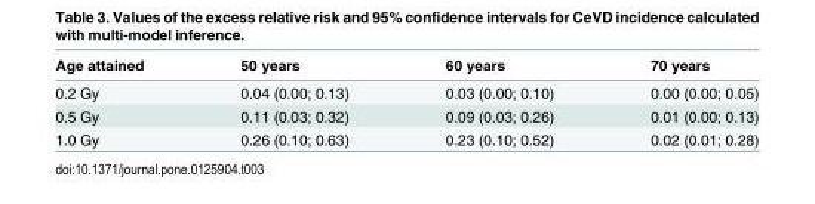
<table><thead><tr><td>Age attained</td><td>50 years</td><td>60 years</td><td>70 years</td></tr></thead><tbody><tr><td>0.2 Gy</td><td>0.04 (0.00; 0.13)</td><td>0.03 (0.00; 0.10)</td><td>0.00 (0.00; 0.05)</td></tr><tr><td>0.5 Gy</td><td>0.11 (0.03; 0.32)</td><td>0.09 (0.03; 0.26)</td><td>0.01 (0.00; 0.13)</td></tr><tr><td>1.0 Gy</td><td>0.26 (0.10; 0.63)</td><td>0.23 (0.10; 0.52)</td><td>0.02 (0.01; 0.28)</td></tr></tbody></table>